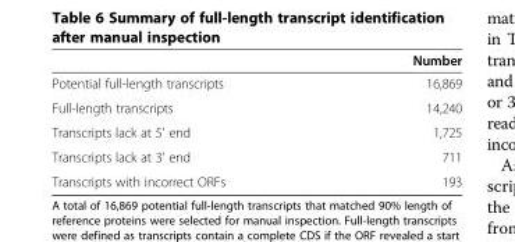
<table><thead><tr><td></td><td>Number</td></tr></thead><tbody><tr><td>Potential full-length transcripts</td><td>16,869</td></tr><tr><td>Full-length transcripts</td><td>14,240</td></tr><tr><td>Transcripts lack at 5&#x27; end</td><td>1,725</td></tr><tr><td>Transcripts lack at 3&#x27; end</td><td>711</td></tr><tr><td>Transcripts with incorrect ORFs</td><td>193</td></tr></tbody></table>